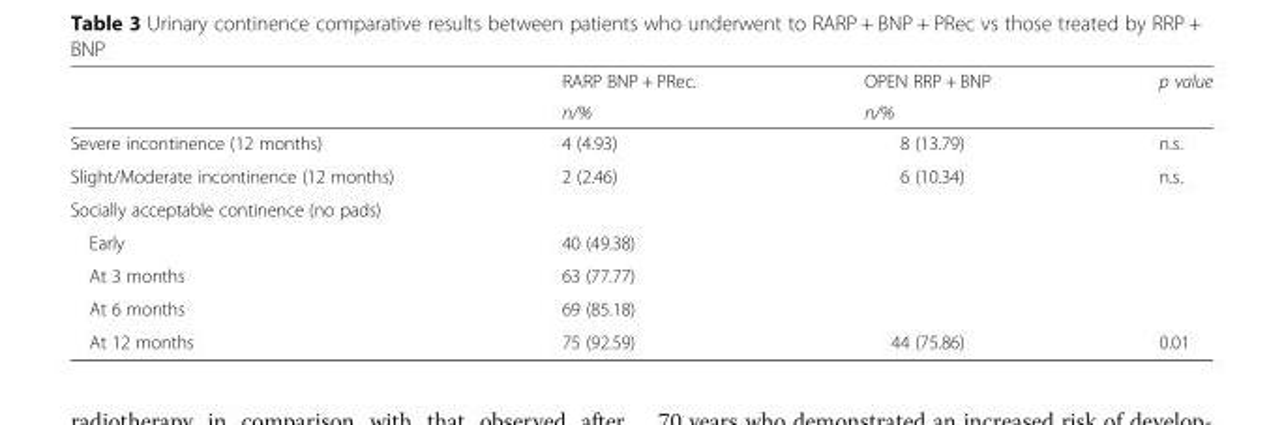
<table><thead><tr><td rowspan="2"></td><td rowspan="2">RARP BNP + PRec. n/%</td><td rowspan="2">OPEN RRP + BNP n/%</td><td rowspan="2">p value</td></tr><tr></tr></thead><tbody><tr><td>Severe incontinence (12 months)</td><td>4 (4.93)</td><td>8 (13.79)</td><td>n.s.</td></tr><tr><td>Slight/Moderate incontinence (12 months)</td><td>2 (2.46)</td><td>6 (10.34)</td><td>n.s.</td></tr><tr><td colspan="4">Socially acceptable continence (no pads)</td></tr><tr><td>Early</td><td>40 (49.38)</td><td></td><td></td></tr><tr><td>At 3 months</td><td>63 (77.77)</td><td></td><td></td></tr><tr><td>At 6 months</td><td>69 (85.18)</td><td></td><td></td></tr><tr><td>At 12 months</td><td>75 (92.59)</td><td>44 (75.86)</td><td>0.01</td></tr></tbody></table>